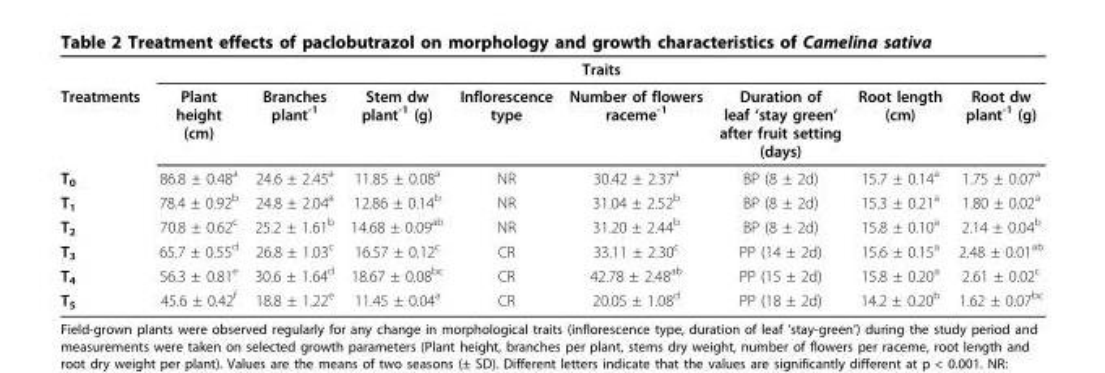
<table><thead><tr><td rowspan="2">Treatments</td><td colspan="8">Traits</td></tr><tr><td>Plant height (cm)</td><td>Branches plant<sup>-1</sup></td><td>Stem dw plant<sup>-1</sup> (g)</td><td>Inflorescence type</td><td>Number of flowers raceme<sup>-1</sup></td><td>Duration of leaf ‘stay green’ after fruit setting (days)</td><td>Root length (cm)</td><td>Root dw plant<sup>-1</sup> (g)</td></tr></thead><tbody><tr><td>T<sub>0</sub></td><td>86.8 ± 0.48<sup>a</sup></td><td>24.6 ± 2.45<sup>a</sup></td><td>11.85 ± 0.08<sup>a</sup></td><td>NR</td><td>30.42 ± 2.37<sup>a</sup></td><td>BP (8 ± 2d)</td><td>15.7 ± 0.14<sup>a</sup></td><td>1.75 ± 0.07<sup>a</sup></td></tr><tr><td>T<sub>1</sub></td><td>78.4 ± 0.92<sup>b</sup></td><td>24.8 ± 2.04<sup>a</sup></td><td>12.86 ± 0.14<sup>b</sup></td><td>NR</td><td>31.04 ± 2.52<sup>b</sup></td><td>BP (8 ± 2d)</td><td>15.3 ± 0.21<sup>a</sup></td><td>1.80 ± 0.02<sup>a</sup></td></tr><tr><td>T<sub>2</sub></td><td>70.8 ± 0.62<sup>c</sup></td><td>25.2 ± 1.61<sup>b</sup></td><td>14.68 ± 0.09<sup>ab</sup></td><td>NR</td><td>31.20 ± 2.44<sup>b</sup></td><td>BP (8 ± 2d)</td><td>15.8 ± 0.10<sup>a</sup></td><td>2.14 ± 0.04<sup>b</sup></td></tr><tr><td>T<sub>3</sub></td><td>65.7 ± 0.55<sup>d</sup></td><td>26.8 ± 1.03<sup>c</sup></td><td>16.57 ± 0.12<sup>c</sup></td><td>CR</td><td>33.11 ± 2.30<sup>c</sup></td><td>PP (14 ± 2d)</td><td>15.6 ± 0.15<sup>a</sup></td><td>2.48 ± 0.01<sup>ab</sup></td></tr><tr><td>T<sub>4</sub></td><td>56.3 ± 0.81<sup>e</sup></td><td>30.6 ± 1.64<sup>d</sup></td><td>18.67 ± 0.08<sup>bc</sup></td><td>CR</td><td>42.78 ± 2.48<sup>ab</sup></td><td>PP (15 ± 2d)</td><td>15.8 ± 0.20<sup>a</sup></td><td>2.61 ± 0.02<sup>c</sup></td></tr><tr><td>T<sub>5</sub></td><td>45.6 ± 0.42<sup>f</sup></td><td>18.8 ± 1.22<sup>e</sup></td><td>11.45 ± 0.04<sup>a</sup></td><td>CR</td><td>20.05 ± 1.08<sup>d</sup></td><td>PP (18 ± 2d)</td><td>14.2 ± 0.20<sup>b</sup></td><td>1.62 ± 0.07<sup>bc</sup></td></tr></tbody></table>